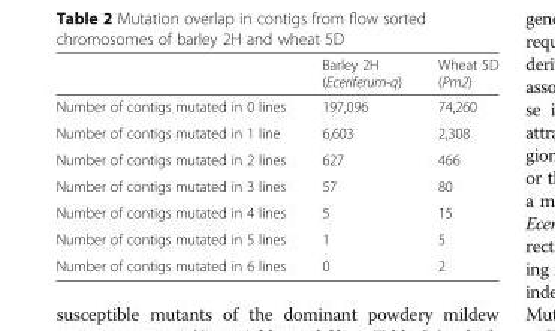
<table><thead><tr><td></td><td>Barley 2H (Eceriferum-q)</td><td>Wheat 5D (Pm2)</td></tr></thead><tbody><tr><td>Number of contigs mutated in 0 lines</td><td>197,096</td><td>74,260</td></tr><tr><td>Number of contigs mutated in 1 line</td><td>6,603</td><td>2,308</td></tr><tr><td>Number of contigs mutated in 2 lines</td><td>627</td><td>466</td></tr><tr><td>Number of contigs mutated in 3 lines</td><td>57</td><td>80</td></tr><tr><td>Number of contigs mutated in 4 lines</td><td>5</td><td>15</td></tr><tr><td>Number of contigs mutated in 5 lines</td><td>1</td><td>5</td></tr><tr><td>Number of contigs mutated in 6 lines</td><td>0</td><td>2</td></tr></tbody></table>